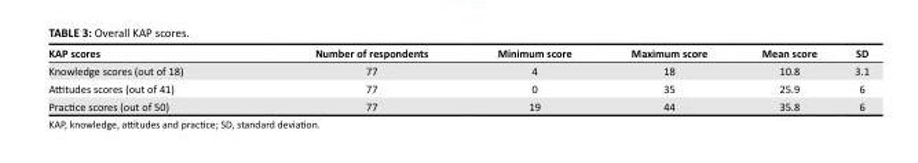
<table><thead><tr><td>KAP scores</td><td>Number of respondents</td><td>Minimum score</td><td>Maximum score</td><td>Mean score</td><td>SD</td></tr></thead><tbody><tr><td>Knowledge scores (out of 18)</td><td>77</td><td>4</td><td>18</td><td>10.8</td><td>3.1</td></tr><tr><td>Attitudes scores (out of 41)</td><td>77</td><td>0</td><td>35</td><td>25.9</td><td>6</td></tr><tr><td>Practice scores (out of 50)</td><td>77</td><td>19</td><td>44</td><td>35.8</td><td>6</td></tr></tbody></table>